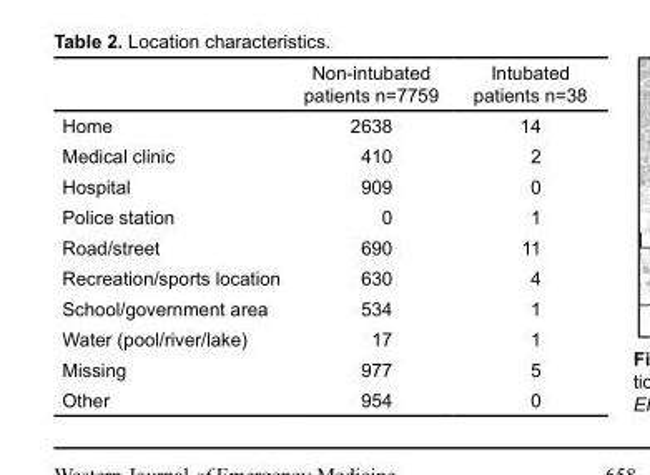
<table><thead><tr><td></td><td>Non-intubated patients n=7759</td><td>Intubated patients n=38</td></tr></thead><tbody><tr><td>Home</td><td>2638</td><td>14</td></tr><tr><td>Medical clinic</td><td>410</td><td>2</td></tr><tr><td>Hospital</td><td>909</td><td>0</td></tr><tr><td>Police station</td><td>0</td><td>1</td></tr><tr><td>Road/street</td><td>690</td><td>11</td></tr><tr><td>Recreation/sports location</td><td>630</td><td>4</td></tr><tr><td>School/government area</td><td>534</td><td>1</td></tr><tr><td>Water (pool/river/lake)</td><td>17</td><td>1</td></tr><tr><td>Missing</td><td>977</td><td>5</td></tr><tr><td>Other</td><td>954</td><td>0</td></tr></tbody></table>